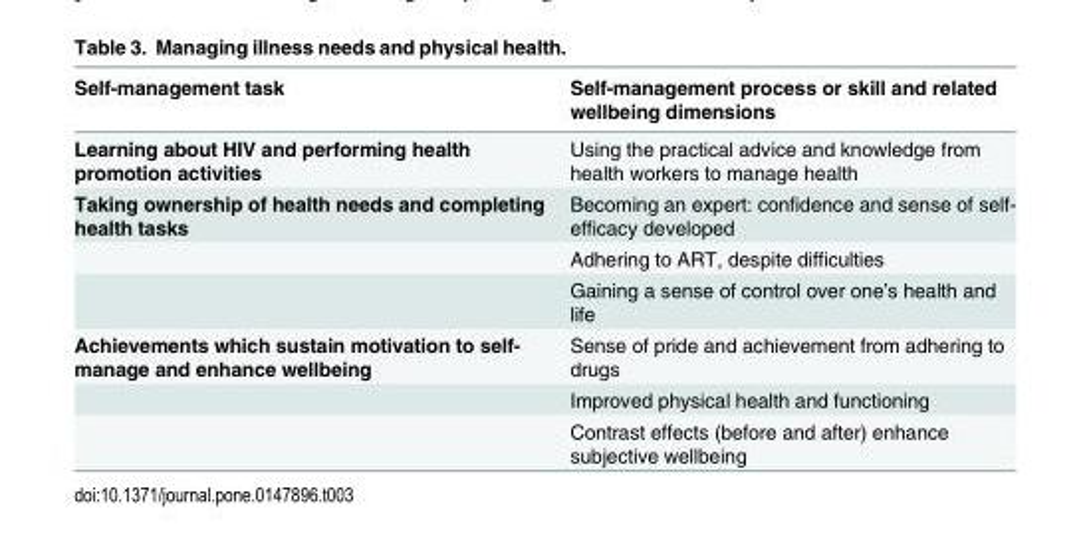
<table><thead><tr><td>Self-management task</td><td>Self-management process or skill and related wellbeing dimensions</td></tr></thead><tbody><tr><td>Learning about HIV and performing health promotion activities</td><td>Using the practical advice and knowledge from health workers to manage health</td></tr><tr><td rowspan="3">Taking ownership of health needs and completing health tasks</td><td>Becoming an expert: confidence and sense of self- efficacy developed</td></tr><tr><td>Adhering to ART, despite difficulties</td></tr><tr><td>Gaining a sense of control over one’s health and life</td></tr><tr><td rowspan="3">Achievements which sustain motivation to self- manage and enhance wellbeing</td><td>Sense of pride and achievement from adhering to drugs</td></tr><tr><td>Improved physical health and functioning</td></tr><tr><td>Contrast effects (before and after) enhance subjective wellbeing</td></tr></tbody></table>